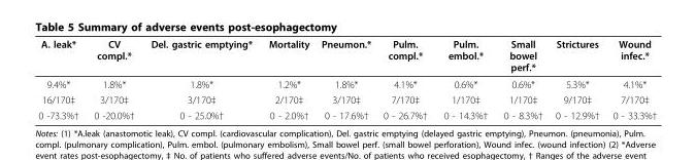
<table><thead><tr><td>A. leak*</td><td>CV compl.*</td><td>Del. gastric emptying*</td><td>Mortality</td><td>Pneumon.*</td><td>Pulm. compl.*</td><td>Pulm. embol.*</td><td>Small bowel perf.*</td><td>Strictures</td><td>Wound infec.*</td></tr></thead><tbody><tr><td>9.4%*</td><td>1.8%*</td><td>1.8%*</td><td>1.2%*</td><td>1.8%*</td><td>4.1%*</td><td>0.6%*</td><td>0.6%*</td><td>5.3%*</td><td>4.1%*</td></tr><tr><td>16/170‡</td><td>3/170‡</td><td>3/170‡</td><td>2/170‡</td><td>3/170‡</td><td>7/170‡</td><td>1/170‡</td><td>1/170‡</td><td>9/170‡</td><td>7/170‡</td></tr><tr><td>0 -73.3%†</td><td>0 -20.0%†</td><td>0 - 25.0%†</td><td>0 - 2.0%†</td><td>0 - 17.6%†</td><td>0 - 26.7%†</td><td>0 - 14.3%†</td><td>0 - 8.3%†</td><td>0 - 12.9%†</td><td>0 - 33.3%†</td></tr></tbody></table>